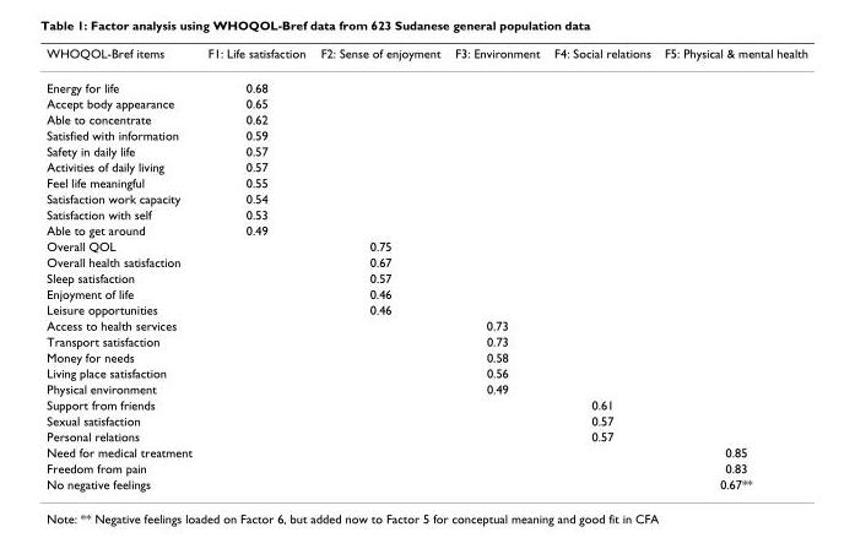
<table><thead><tr><td>WHOQOL-Bref items</td><td>F1: Life satisfaction</td><td>F2: Sense of enjoyment</td><td>F3: Environment</td><td>F4: Social relations</td><td>F5: Physical &amp; mental health</td></tr></thead><tbody><tr><td>Energy for life</td><td>0.68</td><td></td><td></td><td></td><td></td></tr><tr><td>Accept body appearance</td><td>0.65</td><td></td><td></td><td></td><td></td></tr><tr><td>Able to concentrate</td><td>0.62</td><td></td><td></td><td></td><td></td></tr><tr><td>Satisfied with information</td><td>0.59</td><td></td><td></td><td></td><td></td></tr><tr><td>Safety in daily life</td><td>0.57</td><td></td><td></td><td></td><td></td></tr><tr><td>Activities of daily living</td><td>0.57</td><td></td><td></td><td></td><td></td></tr><tr><td>Feel life meaningful</td><td>0.55</td><td></td><td></td><td></td><td></td></tr><tr><td>Satisfaction work capacity</td><td>0.54</td><td></td><td></td><td></td><td></td></tr><tr><td>Satisfaction with self</td><td>0.53</td><td></td><td></td><td></td><td></td></tr><tr><td>Able to get around</td><td>0.49</td><td></td><td></td><td></td><td></td></tr><tr><td>Overall QOL</td><td></td><td>0.75</td><td></td><td></td><td></td></tr><tr><td>Overall health satisfaction</td><td></td><td>0.67</td><td></td><td></td><td></td></tr><tr><td>Sleep satisfaction</td><td></td><td>0.57</td><td></td><td></td><td></td></tr><tr><td>Enjoyment of life</td><td></td><td>0.46</td><td></td><td></td><td></td></tr><tr><td>Leisure opportunities</td><td></td><td>0.46</td><td></td><td></td><td></td></tr><tr><td>Access to health services</td><td></td><td></td><td>0.73</td><td></td><td></td></tr><tr><td>Transport satisfaction</td><td></td><td></td><td>0.73</td><td></td><td></td></tr><tr><td>Money for needs</td><td></td><td></td><td>0.58</td><td></td><td></td></tr><tr><td>Living place satisfaction</td><td></td><td></td><td>0.56</td><td></td><td></td></tr><tr><td>Physical environment</td><td></td><td></td><td>0.49</td><td></td><td></td></tr><tr><td>Support from friends</td><td></td><td></td><td></td><td>0.61</td><td></td></tr><tr><td>Sexual satisfaction</td><td></td><td></td><td></td><td>0.57</td><td></td></tr><tr><td>Personal relations</td><td></td><td></td><td></td><td>0.57</td><td></td></tr><tr><td>Need for medical treatment</td><td></td><td></td><td></td><td></td><td>0.85</td></tr><tr><td>Freedom from pain</td><td></td><td></td><td></td><td></td><td>0.83</td></tr><tr><td>No negative feelings</td><td></td><td></td><td></td><td></td><td>0.67**</td></tr></tbody></table>